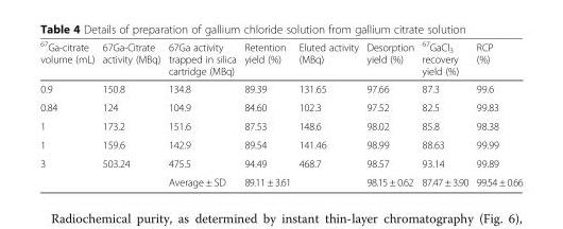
<table><thead><tr><td><sup>67</sup>Ga-citrate volume (mL)</td><td>67Ga-Citrate activity (MBq)</td><td>67Ga activity trapped in silica cartridge (MBq)</td><td>Retention yield (%)</td><td>Eluted activity (MBq)</td><td>Desorption yield (%)</td><td><sup>67</sup>GaCl<sub>3</sub> recovery yield (%)</td><td>RCP (%)</td></tr></thead><tbody><tr><td>0.9</td><td>150.8</td><td>134.8</td><td>89.39</td><td>131.65</td><td>97.66</td><td>87.3</td><td>99.6</td></tr><tr><td>0.84</td><td>124</td><td>104.9</td><td>84.60</td><td>102.3</td><td>97.52</td><td>82.5</td><td>99.83</td></tr><tr><td>1</td><td>173.2</td><td>151.6</td><td>87.53</td><td>148.6</td><td>98.02</td><td>85.8</td><td>98.38</td></tr><tr><td>1</td><td>159.6</td><td>142.9</td><td>89.54</td><td>141.46</td><td>98.99</td><td>88.63</td><td>99.99</td></tr><tr><td rowspan="2">3</td><td>503.24</td><td>475.5</td><td>94.49</td><td>468.7</td><td>98.57</td><td>93.14</td><td>99.89</td></tr><tr><td></td><td>Average ± SD</td><td>89.11 ± 3.61</td><td></td><td>98.15 ± 0.62</td><td>87.47 ± 3.90</td><td>99.54 ± 0.66</td></tr></tbody></table>